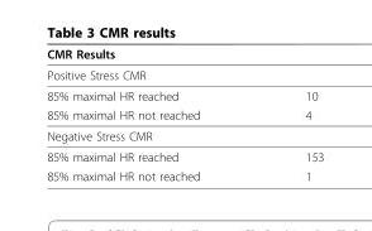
<table><thead><tr><td colspan="2">CMR Results</td></tr><tr><td>Positive Stress CMR</td><td></td></tr></thead><tbody><tr><td>85% maximal HR reached</td><td>10</td></tr><tr><td>85% maximal HR not reached</td><td>4</td></tr><tr><td colspan="2">Negative Stress CMR</td></tr><tr><td>85% maximal HR reached</td><td>153</td></tr><tr><td>85% maximal HR not reached</td><td>1</td></tr></tbody></table>